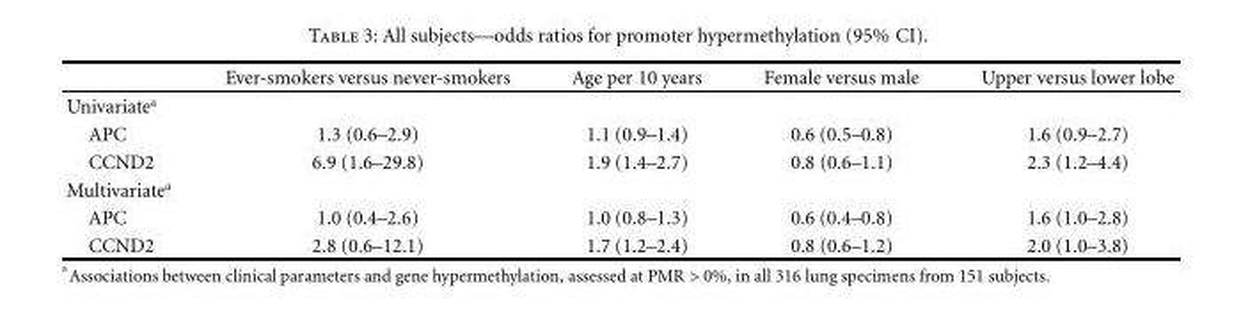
<table><thead><tr><td></td><td>Ever-smokers versus never-smokers</td><td>Age per 10 years</td><td>Female versus male</td><td>Upper versus lower lobe</td></tr></thead><tbody><tr><td colspan="5">Univariate<sup>a</sup></td></tr><tr><td>APC</td><td>1.3 (0.6–2.9)</td><td>1.1 (0.9–1.4)</td><td>0.6 (0.5–0.8)</td><td>1.6 (0.9–2.7)</td></tr><tr><td>CCND2</td><td>6.9 (1.6–29.8)</td><td>1.9 (1.4–2.7)</td><td>0.8 (0.6–1.1)</td><td>2.3 (1.2–4.4)</td></tr><tr><td colspan="5">Multivariate<sup>a</sup></td></tr><tr><td>APC</td><td>1.0 (0.4–2.6)</td><td>1.0 (0.8–1.3)</td><td>0.6 (0.4–0.8)</td><td>1.6 (1.0–2.8)</td></tr><tr><td>CCND2</td><td>2.8 (0.6–12.1)</td><td>1.7 (1.2–2.4)</td><td>0.8 (0.6–1.2)</td><td>2.0 (1.0–3.8)</td></tr></tbody></table>